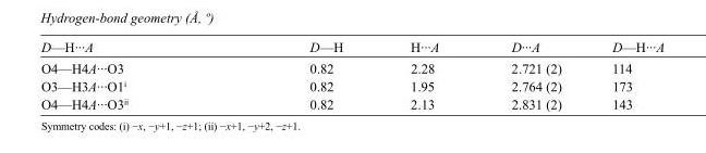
<table><tbody><tr><td>D—H···A</td><td>D—H</td><td>H···A</td><td>D···A</td><td>D—H···A</td></tr><tr><td>O4—H4A···O3</td><td>0.82</td><td>2.28</td><td>2.721 (2)</td><td>114</td></tr><tr><td>O3—H3A···O1<sup>i</sup></td><td>0.82</td><td>1.95</td><td>2.764 (2)</td><td>173</td></tr><tr><td>O4—H4A···O3<sup>ii</sup></td><td>0.82</td><td>2.13</td><td>2.831 (2)</td><td>143</td></tr></tbody></table>